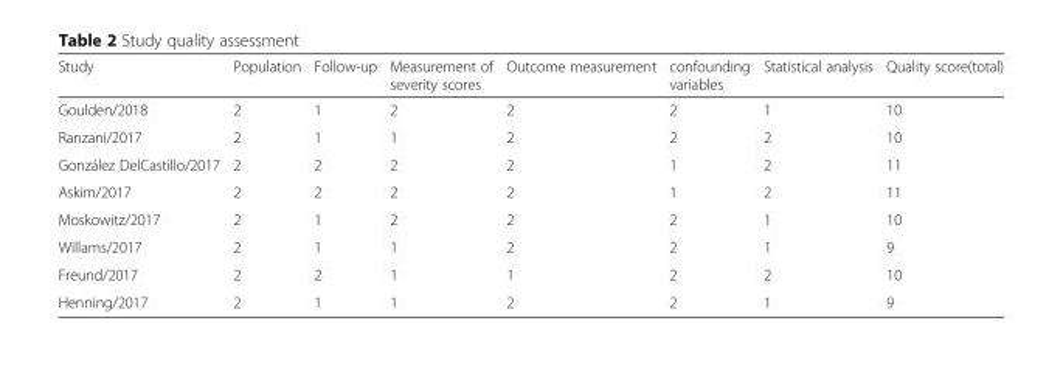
<table><thead><tr><td>Study</td><td>Population</td><td>Follow-up</td><td>Measurement of severity scores</td><td>Outcome measurement</td><td>confounding variables</td><td>Statistical analysis</td><td>Quality score(total)</td></tr></thead><tbody><tr><td>Goulden/2018</td><td>2</td><td>1</td><td>2</td><td>2</td><td>2</td><td>1</td><td>10</td></tr><tr><td>Ranzani/2017</td><td>2</td><td>1</td><td>1</td><td>2</td><td>2</td><td>2</td><td>10</td></tr><tr><td>González DelCastillo/2017</td><td>2</td><td>2</td><td>2</td><td>2</td><td>1</td><td>2</td><td>11</td></tr><tr><td>Askim/2017</td><td>2</td><td>2</td><td>2</td><td>2</td><td>1</td><td>2</td><td>11</td></tr><tr><td>Moskowitz/2017</td><td>2</td><td>1</td><td>2</td><td>2</td><td>2</td><td>1</td><td>10</td></tr><tr><td>Willams/2017</td><td>2</td><td>1</td><td>1</td><td>2</td><td>2</td><td>1</td><td>9</td></tr><tr><td>Freund/2017</td><td>2</td><td>2</td><td>1</td><td>1</td><td>2</td><td>2</td><td>10</td></tr><tr><td>Henning/2017</td><td>2</td><td>1</td><td>1</td><td>2</td><td>2</td><td>1</td><td>9</td></tr></tbody></table>